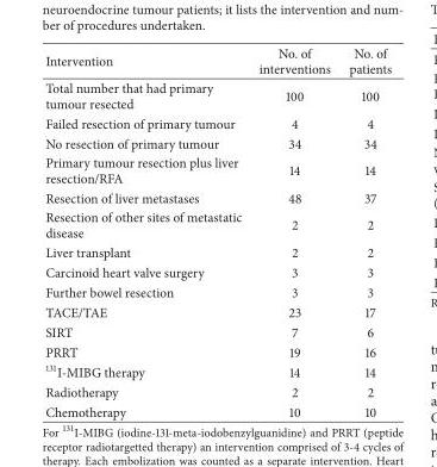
<table><thead><tr><td>Intervention</td><td>No. of interventions</td><td>No. of patients</td></tr></thead><tbody><tr><td>Total number that had primary tumour resected</td><td>100</td><td>100</td></tr><tr><td>Failed resection of primary tumour</td><td>4</td><td>4</td></tr><tr><td>No resection of primary tumour</td><td>34</td><td>34</td></tr><tr><td>Primary tumour resection plus liver resection/RFA</td><td>14</td><td>14</td></tr><tr><td>Resection of liver metastases</td><td>48</td><td>37</td></tr><tr><td>Resection of other sites of metastatic disease</td><td>2</td><td>2</td></tr><tr><td>Liver transplant</td><td>2</td><td>2</td></tr><tr><td>Carcinoid heart valve surgery</td><td>3</td><td>3</td></tr><tr><td>Further bowel resection</td><td>3</td><td>3</td></tr><tr><td>TACE/TAE</td><td>23</td><td>17</td></tr><tr><td>SIRT</td><td>7</td><td>6</td></tr><tr><td>PRRT</td><td>19</td><td>16</td></tr><tr><td><sup>131</sup>I-MIBG therapy</td><td>14</td><td>14</td></tr><tr><td>Radiotherapy</td><td>2</td><td>2</td></tr><tr><td>Chemotherapy</td><td>10</td><td>10</td></tr></tbody></table>